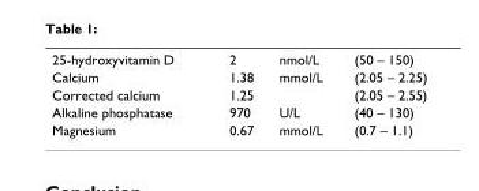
<table><tbody><tr><td>25-hydroxyvitamin D</td><td>2</td><td>nmol/L</td><td>(50 – 150)</td></tr><tr><td>Calcium</td><td>1.38</td><td>mmol/L</td><td>(2.05 – 2.25)</td></tr><tr><td>Corrected calcium</td><td>1.25</td><td></td><td>(2.05 – 2.55)</td></tr><tr><td>Alkaline phosphatase</td><td>970</td><td>U/L</td><td>(40 – 130)</td></tr><tr><td>Magnesium</td><td>0.67</td><td>mmol/L</td><td>(0.7 – 1.1)</td></tr></tbody></table>